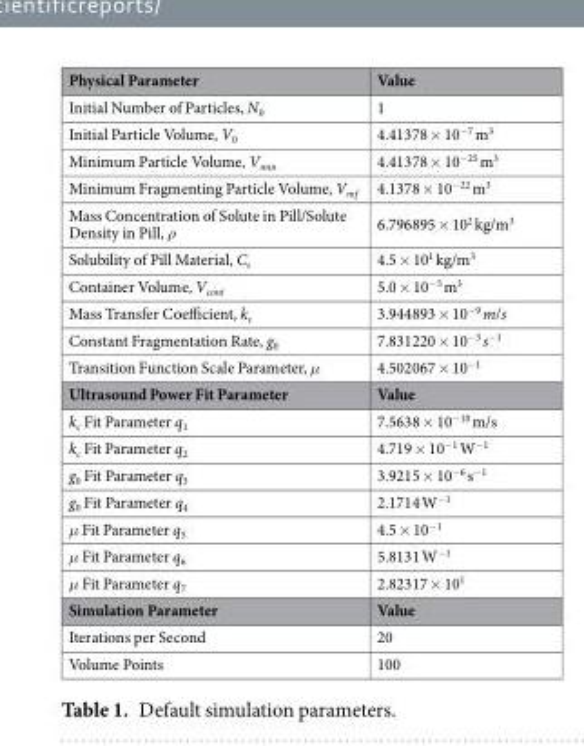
<table><thead><tr><td>Physical Parameter</td><td>Value</td></tr></thead><tbody><tr><td>Initial Number of Particles, N<sub>0</sub></td><td>1</td></tr><tr><td>Initial Particle Volume, V<sub>0</sub></td><td>4.41378 × 10<sup>−7</sup> m<sup>3</sup></td></tr><tr><td>Minimum Particle Volume, V<sub>min</sub></td><td>4.41378 × 10<sup>−25</sup> m<sup>3</sup></td></tr><tr><td>Minimum Fragmenting Particle Volume, V<sub>mf</sub></td><td>4.1378 × 10<sup>−22</sup> m<sup>3</sup></td></tr><tr><td>Mass Concentration of Solute in Pill/Solute Density in Pill, ρ</td><td>6.796895 × 10<sup>2</sup> kg/m<sup>3</sup></td></tr><tr><td>Solubility of Pill Material, C<sub>s</sub></td><td>4.5 × 10<sup>1</sup> kg/m<sup>3</sup></td></tr><tr><td>Container Volume, V<sub>cont</sub></td><td>5.0 × 10<sup>−5</sup> m<sup>3</sup></td></tr><tr><td>Mass Transfer Coefficient, k<sub>c</sub></td><td>3.944893 × 10<sup>−9</sup> m/s</td></tr><tr><td>Constant Fragmentation Rate, g<sub>0</sub></td><td>7.831220 × 10<sup>−3</sup> s<sup>−1</sup></td></tr><tr><td>Transition Function Scale Parameter, μ</td><td>4.502067 × 10<sup>−1</sup></td></tr><tr><td>Ultrasound Power Fit Parameter</td><td>Value</td></tr><tr><td>k<sub>c</sub> Fit Parameter q<sub>1</sub></td><td>7.5638 × 10<sup>−10</sup> m/s</td></tr><tr><td>k<sub>c</sub> Fit Parameter q<sub>2</sub></td><td>4.719 × 10<sup>−1</sup> W<sup>−1</sup></td></tr><tr><td>g<sub>0</sub> Fit Parameter q<sub>3</sub></td><td>3.9215 × 10<sup>−6</sup> s<sup>−1</sup></td></tr><tr><td>g<sub>0</sub> Fit Parameter q<sub>4</sub></td><td>2.1714 W<sup>−1</sup></td></tr><tr><td>μ Fit Parameter q<sub>5</sub></td><td>4.5 × 10<sup>−1</sup></td></tr><tr><td>μ Fit Parameter q<sub>6</sub></td><td>5.8131 W<sup>−1</sup></td></tr><tr><td>μ Fit Parameter q<sub>7</sub></td><td>2.82317 × 10<sup>1</sup></td></tr><tr><td>Simulation Parameter</td><td>Value</td></tr><tr><td>Iterations per Second</td><td>20</td></tr><tr><td>Volume Points</td><td>100</td></tr></tbody></table>